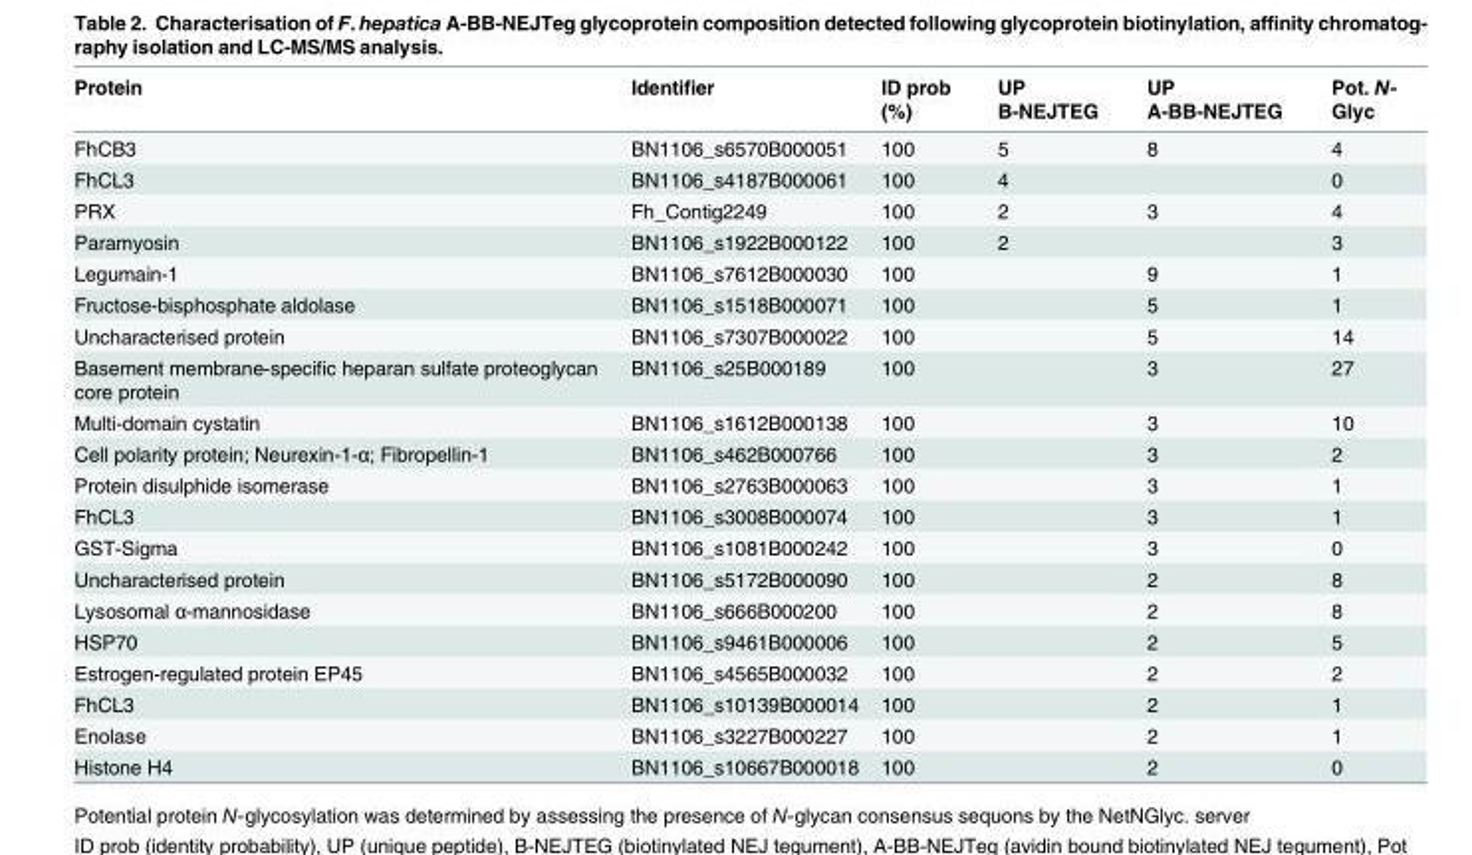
<table><thead><tr><td>Protein</td><td>Identifier</td><td>ID prob (%)</td><td>UP B-NEJTEG</td><td>UP A-BB-NEJTEG</td><td>Pot. N- Glyc</td></tr></thead><tbody><tr><td>FhCB3</td><td>BN1106_s6570B000051</td><td>100</td><td>5</td><td>8</td><td>4</td></tr><tr><td>FhCL3</td><td>BN1106_s4187B000061</td><td>100</td><td>4</td><td></td><td>0</td></tr><tr><td>PRX</td><td>Fh_Contig2249</td><td>100</td><td>2</td><td>3</td><td>4</td></tr><tr><td>Paramyosin</td><td>BN1106_s1922B000122</td><td>100</td><td>2</td><td></td><td>3</td></tr><tr><td>Legumain-1</td><td>BN1106_s7612B000030</td><td>100</td><td></td><td>9</td><td>1</td></tr><tr><td>Fructose-bisphosphate aldolase</td><td>BN1106_s1518B000071</td><td>100</td><td></td><td>5</td><td>1</td></tr><tr><td>Uncharacterised protein</td><td>BN1106_s7307B000022</td><td>100</td><td></td><td>5</td><td>14</td></tr><tr><td>Basement membrane-specific heparan sulfate proteoglycan core protein</td><td>BN1106_s25B000189</td><td>100</td><td></td><td>3</td><td>27</td></tr><tr><td>Multi-domain cystatin</td><td>BN1106_s1612B000138</td><td>100</td><td></td><td>3</td><td>10</td></tr><tr><td>Cell polarity protein; Neurexin-1-α; Fibropellin-1</td><td>BN1106_s462B000766</td><td>100</td><td></td><td>3</td><td>2</td></tr><tr><td>Protein disulphide isomerase</td><td>BN1106_s2763B000063</td><td>100</td><td></td><td>3</td><td>1</td></tr><tr><td>FhCL3</td><td>BN1106_s3008B000074</td><td>100</td><td></td><td>3</td><td>1</td></tr><tr><td>GST-Sigma</td><td>BN1106_s1081B000242</td><td>100</td><td></td><td>3</td><td>0</td></tr><tr><td>Uncharacterised protein</td><td>BN1106_s5172B000090</td><td>100</td><td></td><td>2</td><td>8</td></tr><tr><td>Lysosomal α-mannosidase</td><td>BN1106_s666B000200</td><td>100</td><td></td><td>2</td><td>8</td></tr><tr><td>HSP70</td><td>BN1106_s9461B000006</td><td>100</td><td></td><td>2</td><td>5</td></tr><tr><td>Estrogen-regulated protein EP45</td><td>BN1106_s4565B000032</td><td>100</td><td></td><td>2</td><td>2</td></tr><tr><td>FhCL3</td><td>BN1106_s10139B000014</td><td>100</td><td></td><td>2</td><td>1</td></tr><tr><td>Enolase</td><td>BN1106_s3227B000227</td><td>100</td><td></td><td>2</td><td>1</td></tr><tr><td>Histone H4</td><td>BN1106_s10667B000018</td><td>100</td><td></td><td>2</td><td>0</td></tr></tbody></table>